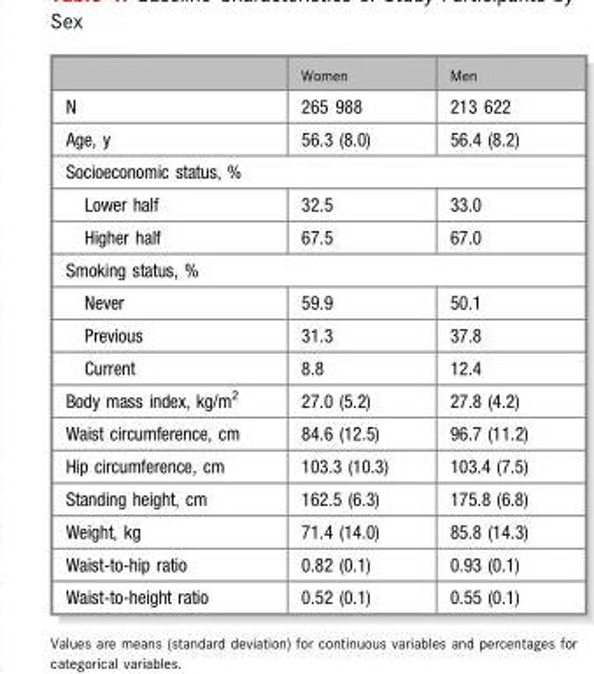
<table><thead><tr><td></td><td>Women</td><td>Men</td></tr></thead><tbody><tr><td>N</td><td>265 988</td><td>213 622</td></tr><tr><td>Age, y</td><td>56.3 (8.0)</td><td>56.4 (8.2)</td></tr><tr><td colspan="3">Socioeconomic status, %</td></tr><tr><td>Lower half</td><td>32.5</td><td>33.0</td></tr><tr><td>Higher half</td><td>67.5</td><td>67.0</td></tr><tr><td colspan="3">Smoking status, %</td></tr><tr><td>Never</td><td>59.9</td><td>50.1</td></tr><tr><td>Previous</td><td>31.3</td><td>37.8</td></tr><tr><td>Current</td><td>8.8</td><td>12.4</td></tr><tr><td>Body mass index, kg/m<sup>2</sup></td><td>27.0 (5.2)</td><td>27.8 (4.2)</td></tr><tr><td>Waist circumference, cm</td><td>84.6 (12.5)</td><td>96.7 (11.2)</td></tr><tr><td>Hip circumference, cm</td><td>103.3 (10.3)</td><td>103.4 (7.5)</td></tr><tr><td>Standing height, cm</td><td>162.5 (6.3)</td><td>175.8 (6.8)</td></tr><tr><td>Weight, kg</td><td>71.4 (14.0)</td><td>85.8 (14.3)</td></tr><tr><td>Waist-to-hip ratio</td><td>0.82 (0.1)</td><td>0.93 (0.1)</td></tr><tr><td>Waist-to-height ratio</td><td>0.52 (0.1)</td><td>0.55 (0.1)</td></tr></tbody></table>